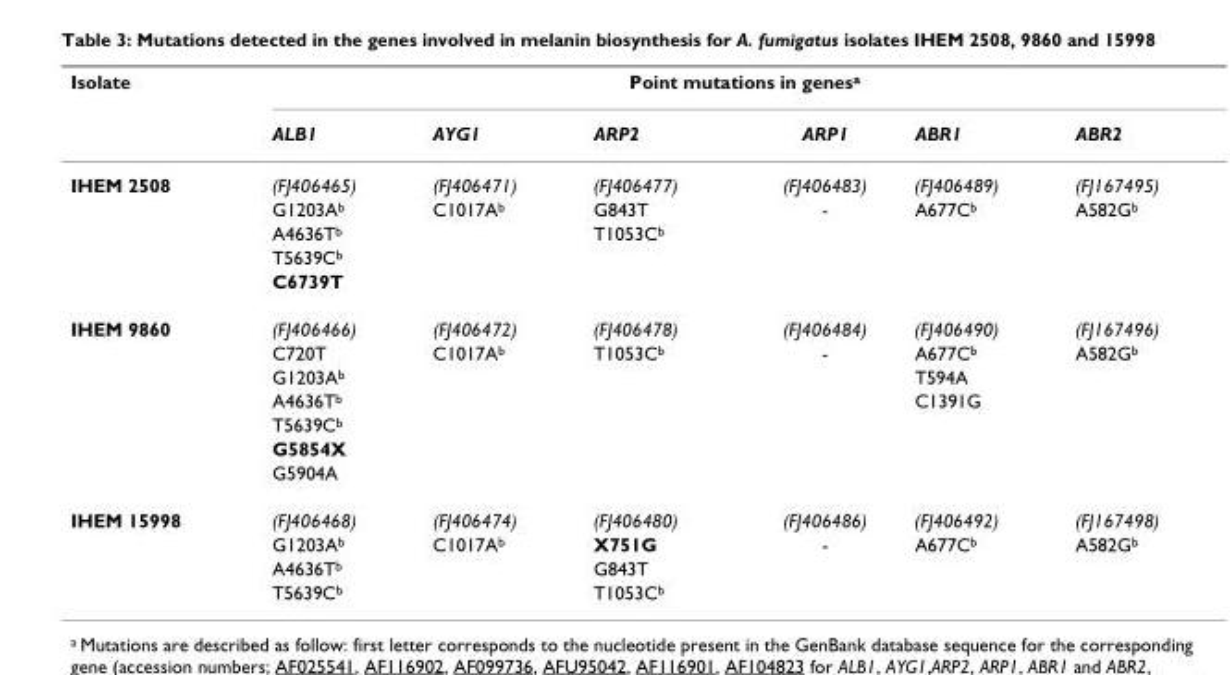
<table><thead><tr><td rowspan="2">Isolate</td><td colspan="6">Point mutations in genes<sup>a</sup></td></tr><tr><td>ALB1</td><td>AYG1</td><td>ARP2</td><td>ARP1</td><td>ABR1</td><td>ABR2</td></tr></thead><tbody><tr><td rowspan="5">IHEM 2508</td><td>(FJ406465)</td><td>(FJ406471)</td><td>(FJ406477)</td><td>(FJ406483)</td><td>(FJ406489)</td><td>(FJ167495)</td></tr><tr><td>G1203A<sup>b</sup></td><td>C1017A<sup>b</sup></td><td>G843T</td><td>-</td><td>A677C<sup>b</sup></td><td>A582G<sup>b</sup></td></tr><tr><td>A4636T<sup>b</sup></td><td></td><td>T1053C<sup>b</sup></td><td></td><td></td><td></td></tr><tr><td>T5639C<sup>b</sup></td><td></td><td></td><td></td><td></td><td></td></tr><tr><td>C6739T</td><td></td><td></td><td></td><td></td><td></td></tr><tr><td rowspan="7">IHEM 9860</td><td>(FJ406466)</td><td>(FJ406472)</td><td>(FJ406478)</td><td>(FJ406484)</td><td>(FJ406490)</td><td>(FJ167496)</td></tr><tr><td>C720T</td><td>C1017A<sup>b</sup></td><td>T1053C<sup>b</sup></td><td>-</td><td>A677C<sup>b</sup></td><td>A582G<sup>b</sup></td></tr><tr><td>G1203A<sup>b</sup></td><td></td><td></td><td></td><td>T594A</td><td></td></tr><tr><td>A4636T<sup>b</sup></td><td></td><td></td><td></td><td>C1391G</td><td></td></tr><tr><td>T5639C<sup>b</sup></td><td></td><td></td><td></td><td></td><td></td></tr><tr><td>G5854X</td><td></td><td></td><td></td><td></td><td></td></tr><tr><td>G5904A</td><td></td><td></td><td></td><td></td><td></td></tr><tr><td rowspan="4">IHEM 15998</td><td>(FJ406468)</td><td>(FJ406474)</td><td>(FJ406480)</td><td>(FJ406486)</td><td>(FJ406492)</td><td>(FJ167498)</td></tr><tr><td>G1203A<sup>b</sup></td><td>C1017A<sup>b</sup></td><td>X751G</td><td>-</td><td>A677C<sup>b</sup></td><td>A582G<sup>b</sup></td></tr><tr><td>A4636T<sup>b</sup></td><td></td><td>G843T</td><td></td><td></td><td></td></tr><tr><td>T5639C<sup>b</sup></td><td></td><td>T1053C<sup>b</sup></td><td></td><td></td><td></td></tr></tbody></table>